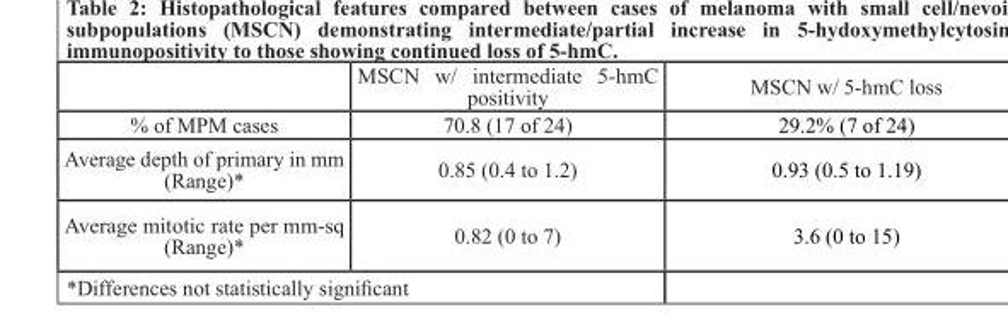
<table><thead><tr><td></td><td>MSCN w/ intermediate 5-hmC positivity</td><td>MSCN w/ 5-hmC loss</td></tr></thead><tbody><tr><td>% of MPM cases</td><td>70.8 (17 of 24)</td><td>29.2% (7 of 24)</td></tr><tr><td>Average depth of primary in mm (Range)*</td><td>0.85 (0.4 to 1.2)</td><td>0.93 (0.5 to 1.19)</td></tr><tr><td>Average mitotic rate per mm-sq (Range)*</td><td>0.82 (0 to 7)</td><td>3.6 (0 to 15)</td></tr></tbody></table>